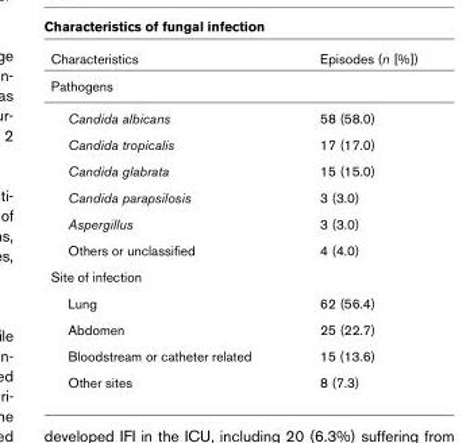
<table><thead><tr><td>Characteristics</td><td>Episodes (n [%])</td></tr></thead><tbody><tr><td colspan="2">Pathogens</td></tr><tr><td>Candida albicans</td><td>58 (58.0)</td></tr><tr><td>Candida tropicalis</td><td>17 (17.0)</td></tr><tr><td>Candida glabrata</td><td>15 (15.0)</td></tr><tr><td>Candida parapsilosis</td><td>3 (3.0)</td></tr><tr><td>Aspergillus</td><td>3 (3.0)</td></tr><tr><td>Others or unclassified</td><td>4 (4.0)</td></tr><tr><td colspan="2">Site of infection</td></tr><tr><td>Lung</td><td>62 (56.4)</td></tr><tr><td>Abdomen</td><td>25 (22.7)</td></tr><tr><td>Bloodstream or catheter related</td><td>15 (13.6)</td></tr><tr><td>Other sites</td><td>8 (7.3)</td></tr></tbody></table>